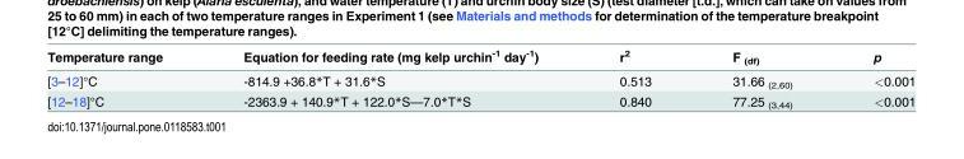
<table><thead><tr><td>Temperature range</td><td>Equation for feeding rate (mg kelp urchin<sup>-1</sup> day<sup>-1</sup>)</td><td>r<sup>2</sup></td><td>F <sub>(df)</sub></td><td>p</td></tr></thead><tbody><tr><td>[3–12]°C</td><td>-814.9 +36.8*T + 31.6*S</td><td>0.513</td><td>31.66 <sub>(2,60)</sub></td><td>&lt;0.001</td></tr><tr><td>[12–18]°C</td><td>-2363.9 + 140.9*T + 122.0*S—7.0*T*S</td><td>0.840</td><td>77.25 <sub>(3,44)</sub></td><td>&lt;0.001</td></tr></tbody></table>